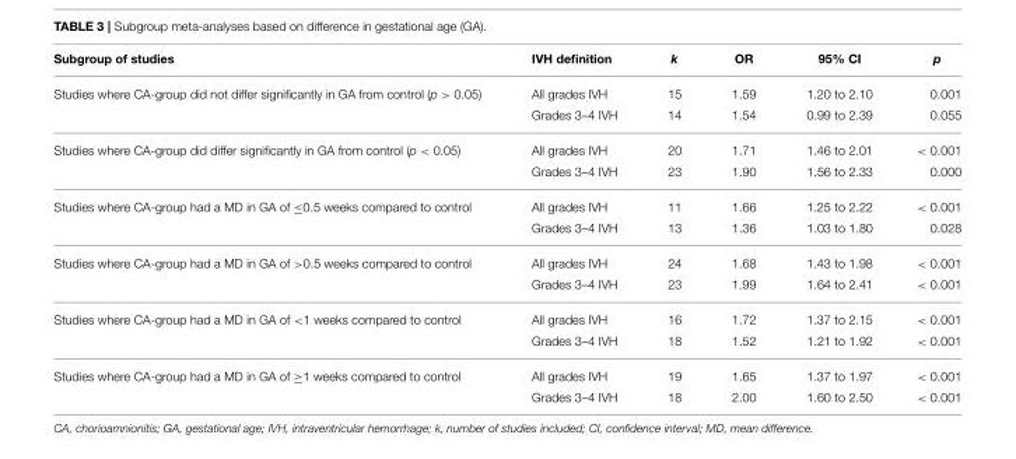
<table><thead><tr><td>Subgroup of studies</td><td>IVH definition</td><td>k</td><td>OR</td><td>95% CI</td><td>p</td></tr></thead><tbody><tr><td rowspan="2">Studies where CA-group did not differ significantly in GA from control (p &gt; 0.05)</td><td>All grades IVH</td><td>15</td><td>1.59</td><td>1.20 to 2.10</td><td>0.001</td></tr><tr><td>Grades 3–4 IVH</td><td>14</td><td>1.54</td><td>0.99 to 2.39</td><td>0.055</td></tr><tr><td rowspan="2">Studies where CA-group did differ significantly in GA from control (p &lt; 0.05)</td><td>All grades IVH</td><td>20</td><td>1.71</td><td>1.46 to 2.01</td><td>&lt; 0.001</td></tr><tr><td>Grades 3–4 IVH</td><td>23</td><td>1.90</td><td>1.56 to 2.33</td><td>0.000</td></tr><tr><td rowspan="2">Studies where CA-group had a MD in GA of ≤0.5 weeks compared to control</td><td>All grades IVH</td><td>11</td><td>1.66</td><td>1.25 to 2.22</td><td>&lt; 0.001</td></tr><tr><td>Grades 3–4 IVH</td><td>13</td><td>1.36</td><td>1.03 to 1.80</td><td>0.028</td></tr><tr><td rowspan="2">Studies where CA-group had a MD in GA of &gt;0.5 weeks compared to control</td><td>All grades IVH</td><td>24</td><td>1.68</td><td>1.43 to 1.98</td><td>&lt; 0.001</td></tr><tr><td>Grades 3–4 IVH</td><td>23</td><td>1.99</td><td>1.64 to 2.41</td><td>&lt; 0.001</td></tr><tr><td rowspan="2">Studies where CA-group had a MD in GA of &lt;1 weeks compared to control</td><td>All grades IVH</td><td>16</td><td>1.72</td><td>1.37 to 2.15</td><td>&lt; 0.001</td></tr><tr><td>Grades 3–4 IVH</td><td>18</td><td>1.52</td><td>1.21 to 1.92</td><td>&lt; 0.001</td></tr><tr><td rowspan="2">Studies where CA-group had a MD in GA of ≥1 weeks compared to control</td><td>All grades IVH</td><td>19</td><td>1.65</td><td>1.37 to 1.97</td><td>&lt; 0.001</td></tr><tr><td>Grades 3–4 IVH</td><td>18</td><td>2.00</td><td>1.60 to 2.50</td><td>&lt; 0.001</td></tr></tbody></table>